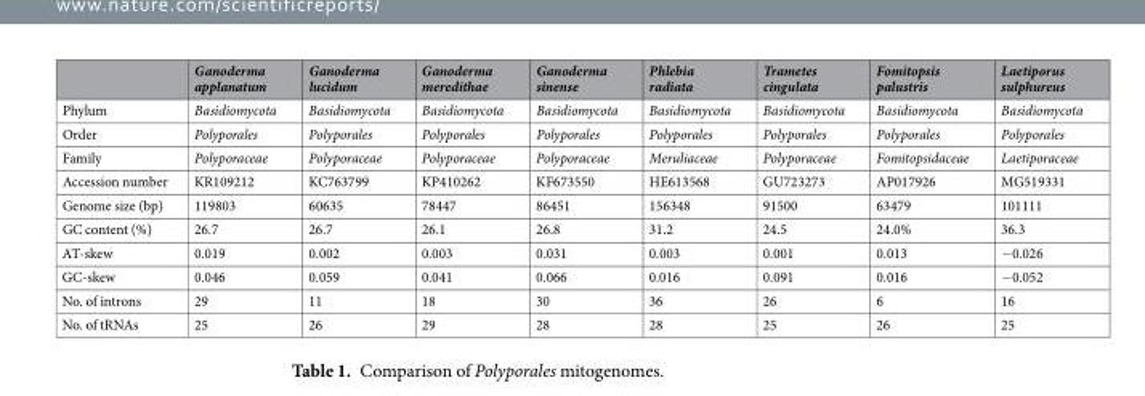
<table><thead><tr><td></td><td>Ganoderma applanatum</td><td>Ganoderma lucidum</td><td>Ganoderma meredithae</td><td>Ganoderma sinense</td><td>Phlebia radiata</td><td>Trametes cingulata</td><td>Fomitopsis palustris</td><td>Laetiporus sulphureus</td></tr></thead><tbody><tr><td>Phylum</td><td>Basidiomycota</td><td>Basidiomycota</td><td>Basidiomycota</td><td>Basidiomycota</td><td>Basidiomycota</td><td>Basidiomycota</td><td>Basidiomycota</td><td>Basidiomycota</td></tr><tr><td>Order</td><td>Polyporales</td><td>Polyporales</td><td>Polyporales</td><td>Polyporales</td><td>Polyporales</td><td>Polyporales</td><td>Polyporales</td><td>Polyporales</td></tr><tr><td>Family</td><td>Polyporaceae</td><td>Polyporaceae</td><td>Polyporaceae</td><td>Polyporaceae</td><td>Meruliaceae</td><td>Polyporaceae</td><td>Fomitopsidaceae</td><td>Laetiporaceae</td></tr><tr><td>Accession number</td><td>KR109212</td><td>KC763799</td><td>KP410262</td><td>KF673550</td><td>HE613568</td><td>GU723273</td><td>AP017926</td><td>MG519331</td></tr><tr><td>Genome size (bp)</td><td>119803</td><td>60635</td><td>78447</td><td>86451</td><td>156348</td><td>91500</td><td>63479</td><td>101111</td></tr><tr><td>GC content (%)</td><td>26.7</td><td>26.7</td><td>26.1</td><td>26.8</td><td>31.2</td><td>24.5</td><td>24.0%</td><td>36.3</td></tr><tr><td>AT-skew</td><td>0.019</td><td>0.002</td><td>0.003</td><td>0.031</td><td>0.003</td><td>0.001</td><td>0.013</td><td>−0.026</td></tr><tr><td>GC-skew</td><td>0.046</td><td>0.059</td><td>0.041</td><td>0.066</td><td>0.016</td><td>0.091</td><td>0.016</td><td>−0.052</td></tr><tr><td>No. of introns</td><td>29</td><td>11</td><td>18</td><td>30</td><td>36</td><td>26</td><td>6</td><td>16</td></tr><tr><td>No. of tRNAs</td><td>25</td><td>26</td><td>29</td><td>28</td><td>28</td><td>25</td><td>26</td><td>25</td></tr></tbody></table>